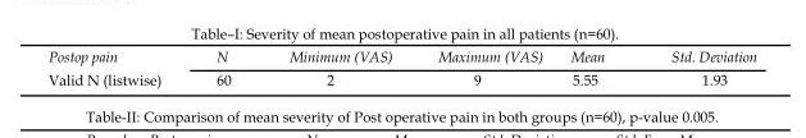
<table><thead><tr><td>Postop pain</td><td>N</td><td>Minimum (VAS)</td><td>Maximum (VAS)</td><td>Mean</td><td>Std. Deviation</td></tr></thead><tbody><tr><td>Valid N (listwise)</td><td>60</td><td>2</td><td>9</td><td>5.55</td><td>1.93</td></tr></tbody></table>